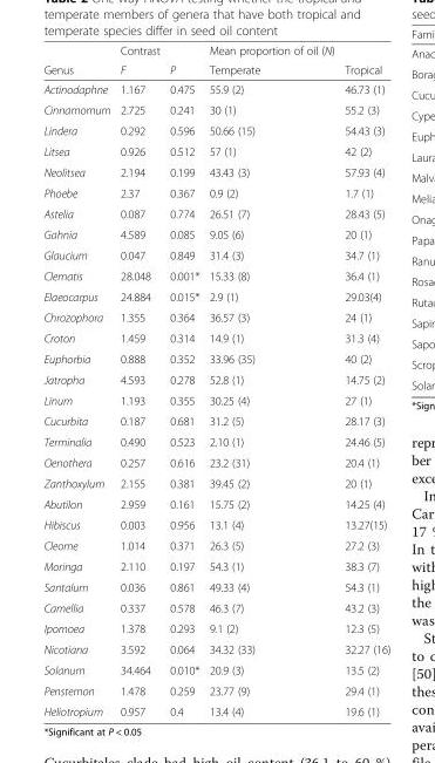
<table><thead><tr><td rowspan="2">Genus</td><td rowspan="2">Contrast F</td><td rowspan="2">P</td><td rowspan="2">Mean proportion of oil (N) Temperate</td><td rowspan="2">Tropical</td></tr><tr></tr></thead><tbody><tr><td>Actinodaphne</td><td>1.167</td><td>0.475</td><td>55.9 (2)</td><td>46.73 (1)</td></tr><tr><td>Cinnamomum</td><td>2.725</td><td>0.241</td><td>30 (1)</td><td>55.2 (3)</td></tr><tr><td>Lindera</td><td>0.292</td><td>0.596</td><td>50.66 (15)</td><td>54.43 (3)</td></tr><tr><td>Litsea</td><td>0.926</td><td>0.512</td><td>57 (1)</td><td>42 (2)</td></tr><tr><td>Neolitsea</td><td>2.194</td><td>0.199</td><td>43.43 (3)</td><td>57.93 (4)</td></tr><tr><td>Phoebe</td><td>2.37</td><td>0.367</td><td>0.9 (2)</td><td>1.7 (1)</td></tr><tr><td>Astelia</td><td>0.087</td><td>0.774</td><td>26.51 (7)</td><td>28.43 (5)</td></tr><tr><td>Gahnia</td><td>4.589</td><td>0.085</td><td>9.05 (6)</td><td>20 (1)</td></tr><tr><td>Glaucium</td><td>0.047</td><td>0.849</td><td>31.4 (3)</td><td>34.7 (1)</td></tr><tr><td>Clematis</td><td>28.048</td><td>0.001*</td><td>15.33 (8)</td><td>36.4 (1)</td></tr><tr><td>Elaeocarpus</td><td>24.884</td><td>0.015*</td><td>2.9 (1)</td><td>29.03(4)</td></tr><tr><td>Chrozophora</td><td>1.355</td><td>0.364</td><td>36.57 (3)</td><td>24 (1)</td></tr><tr><td>Croton</td><td>1.459</td><td>0.314</td><td>14.9 (1)</td><td>31.3 (4)</td></tr><tr><td>Euphorbia</td><td>0.888</td><td>0.352</td><td>33.96 (35)</td><td>40 (2)</td></tr><tr><td>Jatropha</td><td>4.593</td><td>0.278</td><td>52.8 (1)</td><td>14.75 (2)</td></tr><tr><td>Linum</td><td>1.193</td><td>0.355</td><td>30.25 (4)</td><td>27 (1)</td></tr><tr><td>Cucurbita</td><td>0.187</td><td>0.681</td><td>31.2 (5)</td><td>28.17 (3)</td></tr><tr><td>Terminalia</td><td>0.490</td><td>0.523</td><td>2.10 (1)</td><td>24.46 (5)</td></tr><tr><td>Oenothera</td><td>0.257</td><td>0.616</td><td>23.2 (31)</td><td>20.4 (1)</td></tr><tr><td>Zanthoxylum</td><td>2.155</td><td>0.381</td><td>39.45 (2)</td><td>20 (1)</td></tr><tr><td>Abutilon</td><td>2.959</td><td>0.161</td><td>15.75 (2)</td><td>14.25 (4)</td></tr><tr><td>Hibiscus</td><td>0.003</td><td>0.956</td><td>13.1 (4)</td><td>13.27(15)</td></tr><tr><td>Cleome</td><td>1.014</td><td>0.371</td><td>26.3 (5)</td><td>27.2 (3)</td></tr><tr><td>Moringa</td><td>2.110</td><td>0.197</td><td>54.3 (1)</td><td>38.3 (7)</td></tr><tr><td>Santalum</td><td>0.036</td><td>0.861</td><td>49.33 (4)</td><td>54.3 (1)</td></tr><tr><td>Camellia</td><td>0.337</td><td>0.578</td><td>46.3 (7)</td><td>43.2 (3)</td></tr><tr><td>Ipomoea</td><td>1.378</td><td>0.293</td><td>9.1 (2)</td><td>12.3 (5)</td></tr><tr><td>Nicotiana</td><td>3.592</td><td>0.064</td><td>34.32 (33)</td><td>32.27 (16)</td></tr><tr><td>Solanum</td><td>34.464</td><td>0.010*</td><td>20.9 (3)</td><td>13.5 (2)</td></tr><tr><td>Penstemon</td><td>1.478</td><td>0.259</td><td>23.77 (9)</td><td>29.4 (1)</td></tr><tr><td>Heliotropium</td><td>0.957</td><td>0.4</td><td>13.4 (4)</td><td>19.6 (1)</td></tr></tbody></table>